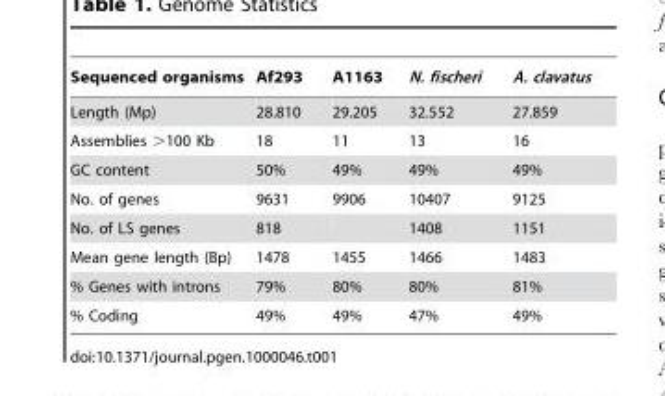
<table><thead><tr><td>Sequenced organisms</td><td>Af293</td><td>A1163</td><td>N. fischeri</td><td>A. clavatus</td></tr></thead><tbody><tr><td>Length (Mp)</td><td>28.810</td><td>29.205</td><td>32.552</td><td>27.859</td></tr><tr><td>Assemblies &gt;100 Kb</td><td>18</td><td>11</td><td>13</td><td>16</td></tr><tr><td>GC content</td><td>50%</td><td>49%</td><td>49%</td><td>49%</td></tr><tr><td>No. of genes</td><td>9631</td><td>9906</td><td>10407</td><td>9125</td></tr><tr><td>No. of LS genes</td><td>818</td><td></td><td>1408</td><td>1151</td></tr><tr><td>Mean gene length (Bp)</td><td>1478</td><td>1455</td><td>1466</td><td>1483</td></tr><tr><td>% Genes with introns</td><td>79%</td><td>80%</td><td>80%</td><td>81%</td></tr><tr><td>% Coding</td><td>49%</td><td>49%</td><td>47%</td><td>49%</td></tr></tbody></table>